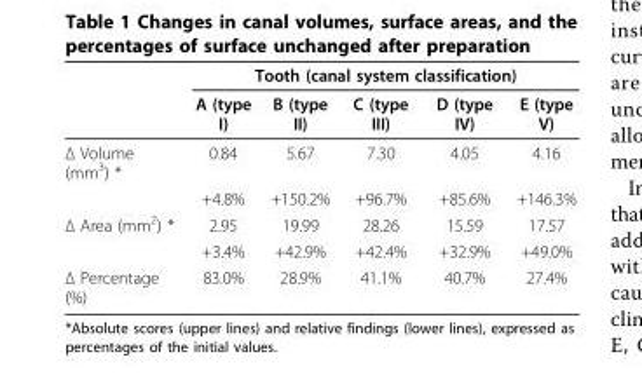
<table><thead><tr><td rowspan="2"></td><td colspan="5">Tooth (canal system classification)</td></tr><tr><td>A (type I)</td><td>B (type II)</td><td>C (type III)</td><td>D (type IV)</td><td>E (type V)</td></tr></thead><tbody><tr><td rowspan="2">Δ Volume (mm<sup>3</sup>) *</td><td>0.84</td><td>5.67</td><td>7.30</td><td>4.05</td><td>4.16</td></tr><tr><td>+4.8%</td><td>+150.2%</td><td>+96.7%</td><td>+85.6%</td><td>+146.3%</td></tr><tr><td rowspan="2">Δ Area (mm<sup>2</sup>) *</td><td>2.95</td><td>19.99</td><td>28.26</td><td>15.59</td><td>17.57</td></tr><tr><td>+3.4%</td><td>+42.9%</td><td>+42.4%</td><td>+32.9%</td><td>+49.0%</td></tr><tr><td>Δ Percentage (%)</td><td>83.0%</td><td>28.9%</td><td>41.1%</td><td>40.7%</td><td>27.4%</td></tr></tbody></table>